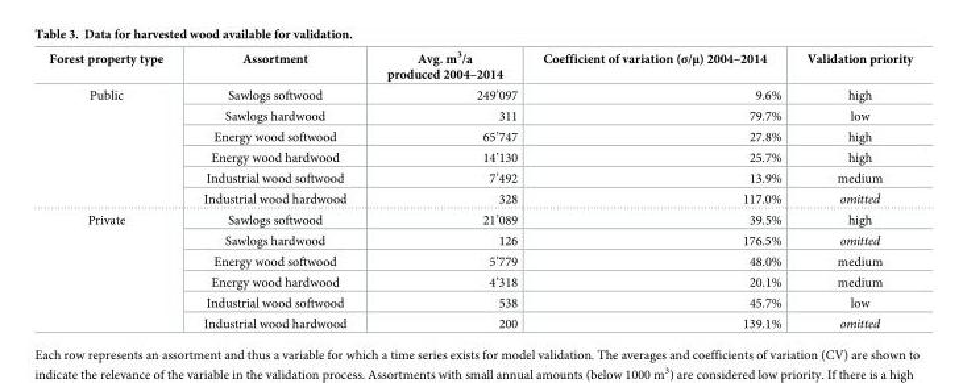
<table><thead><tr><td>Forest property type</td><td>Assortment</td><td>Avg. m<sup>3</sup>/a produced 2004–2014</td><td>Coefficient of variation (σ/μ) 2004–2014</td><td>Validation priority</td></tr></thead><tbody><tr><td rowspan="6">Public</td><td>Sawlogs softwood</td><td>249’097</td><td>9.6%</td><td>high</td></tr><tr><td>Sawlogs hardwood</td><td>311</td><td>79.7%</td><td>low</td></tr><tr><td>Energy wood softwood</td><td>65’747</td><td>27.8%</td><td>high</td></tr><tr><td>Energy wood hardwood</td><td>14’130</td><td>25.7%</td><td>high</td></tr><tr><td>Industrial wood softwood</td><td>7’492</td><td>13.9%</td><td>medium</td></tr><tr><td>Industrial wood hardwood</td><td>328</td><td>117.0%</td><td>omitted</td></tr><tr><td rowspan="6">Private</td><td>Sawlogs softwood</td><td>21’089</td><td>39.5%</td><td>high</td></tr><tr><td>Sawlogs hardwood</td><td>126</td><td>176.5%</td><td>omitted</td></tr><tr><td>Energy wood softwood</td><td>5’779</td><td>48.0%</td><td>medium</td></tr><tr><td>Energy wood hardwood</td><td>4’318</td><td>20.1%</td><td>medium</td></tr><tr><td>Industrial wood softwood</td><td>538</td><td>45.7%</td><td>low</td></tr><tr><td>Industrial wood hardwood</td><td>200</td><td>139.1%</td><td>omitted</td></tr></tbody></table>